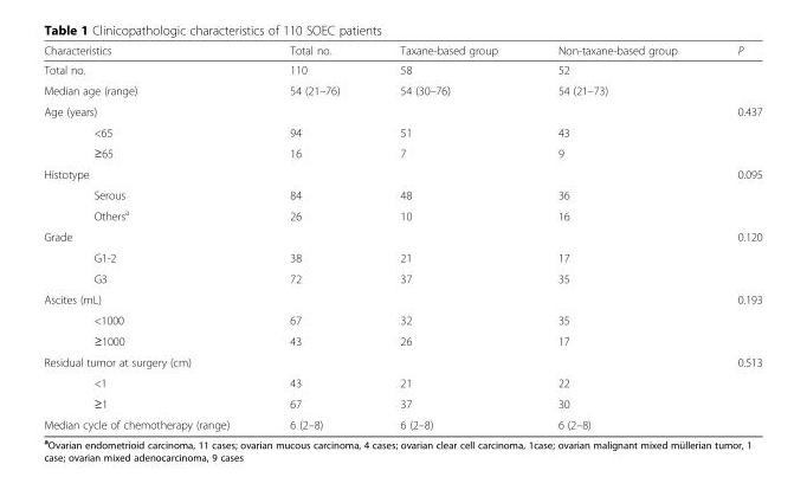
<table><thead><tr><td>Characteristics</td><td>Total no.</td><td>Taxane-based group</td><td>Non-taxane-based group</td><td>P</td></tr></thead><tbody><tr><td>Total no.</td><td>110</td><td>58</td><td>52</td><td></td></tr><tr><td>Median age (range)</td><td>54 (21–76)</td><td>54 (30–76)</td><td>54 (21–73)</td><td></td></tr><tr><td>Age (years)</td><td></td><td></td><td></td><td>0.437</td></tr><tr><td>&lt;65</td><td>94</td><td>51</td><td>43</td><td></td></tr><tr><td>≥65</td><td>16</td><td>7</td><td>9</td><td></td></tr><tr><td>Histotype</td><td></td><td></td><td></td><td>0.095</td></tr><tr><td>Serous</td><td>84</td><td>48</td><td>36</td><td></td></tr><tr><td>Others<sup>a</sup></td><td>26</td><td>10</td><td>16</td><td></td></tr><tr><td>Grade</td><td></td><td></td><td></td><td>0.120</td></tr><tr><td>G1-2</td><td>38</td><td>21</td><td>17</td><td></td></tr><tr><td>G3</td><td>72</td><td>37</td><td>35</td><td></td></tr><tr><td>Ascites (mL)</td><td></td><td></td><td></td><td>0.193</td></tr><tr><td>&lt;1000</td><td>67</td><td>32</td><td>35</td><td></td></tr><tr><td>≥1000</td><td>43</td><td>26</td><td>17</td><td></td></tr><tr><td>Residual tumor at surgery (cm)</td><td></td><td></td><td></td><td>0.513</td></tr><tr><td>&lt;1</td><td>43</td><td>21</td><td>22</td><td></td></tr><tr><td>≥1</td><td>67</td><td>37</td><td>30</td><td></td></tr><tr><td>Median cycle of chemotherapy (range)</td><td>6 (2–8)</td><td>6 (2–8)</td><td>6 (2–8)</td><td></td></tr></tbody></table>